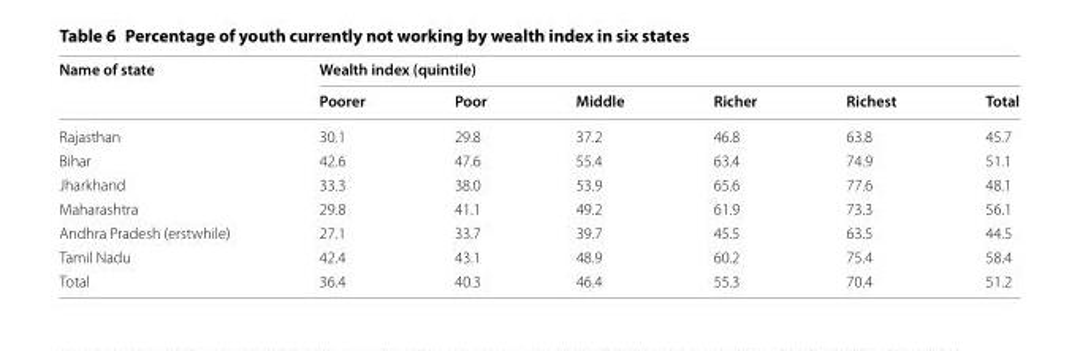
<table><thead><tr><td rowspan="2">Name of state</td><td colspan="6">Wealth index (quintile)</td></tr><tr><td>Poorer</td><td>Poor</td><td>Middle</td><td>Richer</td><td>Richest</td><td>Total</td></tr></thead><tbody><tr><td>Rajasthan</td><td>30.1</td><td>29.8</td><td>37.2</td><td>46.8</td><td>63.8</td><td>45.7</td></tr><tr><td>Bihar</td><td>42.6</td><td>47.6</td><td>55.4</td><td>63.4</td><td>74.9</td><td>51.1</td></tr><tr><td>Jharkhand</td><td>33.3</td><td>38.0</td><td>53.9</td><td>65.6</td><td>77.6</td><td>48.1</td></tr><tr><td>Maharashtra</td><td>29.8</td><td>41.1</td><td>49.2</td><td>61.9</td><td>73.3</td><td>56.1</td></tr><tr><td>Andhra Pradesh (erstwhile)</td><td>27.1</td><td>33.7</td><td>39.7</td><td>45.5</td><td>63.5</td><td>44.5</td></tr><tr><td>Tamil Nadu</td><td>42.4</td><td>43.1</td><td>48.9</td><td>60.2</td><td>75.4</td><td>58.4</td></tr><tr><td>Total</td><td>36.4</td><td>40.3</td><td>46.4</td><td>55.3</td><td>70.4</td><td>51.2</td></tr></tbody></table>